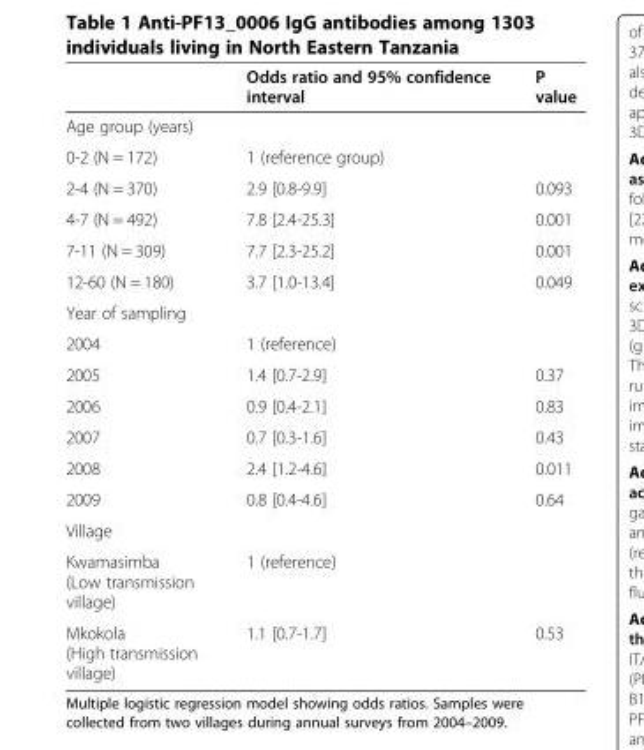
<table><thead><tr><td></td><td>Odds ratio and 95% confidence interval</td><td>P value</td></tr></thead><tbody><tr><td colspan="3">Age group (years)</td></tr><tr><td>0-2 (N = 172)</td><td>1 (reference group)</td><td></td></tr><tr><td>2-4 (N = 370)</td><td>2.9 [0.8-9.9]</td><td>0.093</td></tr><tr><td>4-7 (N = 492)</td><td>7.8 [2.4-25.3]</td><td>0.001</td></tr><tr><td>7-11 (N = 309)</td><td>7.7 [2.3-25.2]</td><td>0.001</td></tr><tr><td>12-60 (N = 180)</td><td>3.7 [1.0-13.4]</td><td>0.049</td></tr><tr><td colspan="3">Year of sampling</td></tr><tr><td>2004</td><td>1 (reference)</td><td></td></tr><tr><td>2005</td><td>1.4 [0.7-2.9]</td><td>0.37</td></tr><tr><td>2006</td><td>0.9 [0.4-2.1]</td><td>0.83</td></tr><tr><td>2007</td><td>0.7 [0.3-1.6]</td><td>0.43</td></tr><tr><td>2008</td><td>2.4 [1.2-4.6]</td><td>0.011</td></tr><tr><td>2009</td><td>0.8 [0.4-4.6]</td><td>0.64</td></tr><tr><td colspan="3">Village</td></tr><tr><td>Kwamasimba (Low transmission village)</td><td>1 (reference)</td><td></td></tr><tr><td>Mkokola (High transmission village)</td><td>1.1 [0.7-1.7]</td><td>0.53</td></tr></tbody></table>